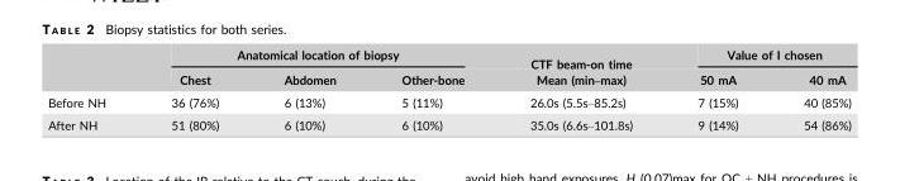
<table><thead><tr><td rowspan="2"></td><td colspan="3">Anatomical location of biopsy</td><td rowspan="2">CTF beam-on time Mean (min–max)</td><td colspan="2">Value of I chosen</td></tr><tr><td>Chest</td><td>Abdomen</td><td>Other-bone</td><td>50 mA</td><td>40 mA</td></tr></thead><tbody><tr><td>Before NH</td><td>36 (76%)</td><td>6 (13%)</td><td>5 (11%)</td><td>26.0s (5.5s–85.2s)</td><td>7 (15%)</td><td>40 (85%)</td></tr><tr><td>After NH</td><td>51 (80%)</td><td>6 (10%)</td><td>6 (10%)</td><td>35.0s (6.6s–101.8s)</td><td>9 (14%)</td><td>54 (86%)</td></tr></tbody></table>